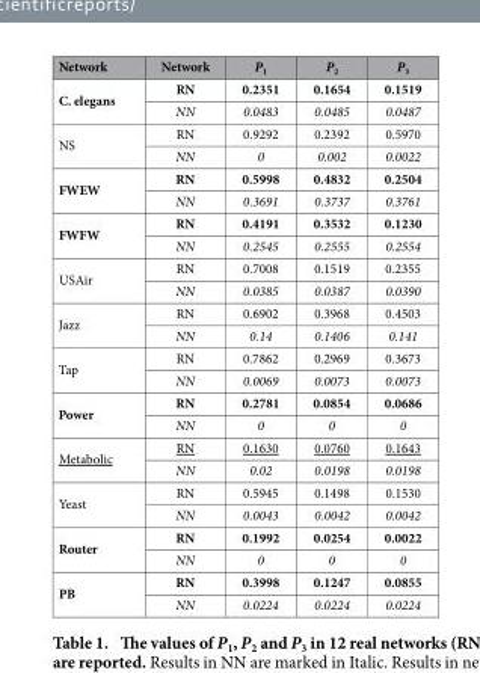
<table><thead><tr><td>Network</td><td>Network</td><td>P<sub>1</sub></td><td>P<sub>2</sub></td><td>P<sub>3</sub></td></tr></thead><tbody><tr><td rowspan="2">C. elegans</td><td>RN</td><td>0.2351</td><td>0.1654</td><td>0.1519</td></tr><tr><td>NN</td><td>0.0483</td><td>0.0485</td><td>0.0487</td></tr><tr><td rowspan="2">NS</td><td>RN</td><td>0.9292</td><td>0.2392</td><td>0.5970</td></tr><tr><td>NN</td><td>0</td><td>0.002</td><td>0.0022</td></tr><tr><td rowspan="2">FWEW</td><td>RN</td><td>0.5998</td><td>0.4832</td><td>0.2504</td></tr><tr><td>NN</td><td>0.3691</td><td>0.3737</td><td>0.3761</td></tr><tr><td rowspan="2">FWFW</td><td>RN</td><td>0.4191</td><td>0.3532</td><td>0.1230</td></tr><tr><td>NN</td><td>0.2545</td><td>0.2555</td><td>0.2554</td></tr><tr><td rowspan="2">USAir</td><td>RN</td><td>0.7008</td><td>0.1519</td><td>0.2355</td></tr><tr><td>NN</td><td>0.0385</td><td>0.0387</td><td>0.0390</td></tr><tr><td rowspan="2">Jazz</td><td>RN</td><td>0.6902</td><td>0.3968</td><td>0.4503</td></tr><tr><td>NN</td><td>0.14</td><td>0.1406</td><td>0.141</td></tr><tr><td rowspan="2">Tap</td><td>RN</td><td>0.7862</td><td>0.2969</td><td>0.3673</td></tr><tr><td>NN</td><td>0.0069</td><td>0.0073</td><td>0.0073</td></tr><tr><td rowspan="2">Power</td><td>RN</td><td>0.2781</td><td>0.0854</td><td>0.0686</td></tr><tr><td>NN</td><td>0</td><td>0</td><td>0</td></tr><tr><td rowspan="2">Metabolic</td><td>RN</td><td>0.1630</td><td>0.0760</td><td>0.1643</td></tr><tr><td>NN</td><td>0.02</td><td>0.0198</td><td>0.0198</td></tr><tr><td rowspan="2">Yeast</td><td>RN</td><td>0.5945</td><td>0.1498</td><td>0.1530</td></tr><tr><td>NN</td><td>0.0043</td><td>0.0042</td><td>0.0042</td></tr><tr><td rowspan="2">Router</td><td>RN</td><td>0.1992</td><td>0.0254</td><td>0.0022</td></tr><tr><td>NN</td><td>0</td><td>0</td><td>0</td></tr><tr><td rowspan="2">PB</td><td>RN</td><td>0.3998</td><td>0.1247</td><td>0.0855</td></tr><tr><td>NN</td><td>0.0224</td><td>0.0224</td><td>0.0224</td></tr></tbody></table>